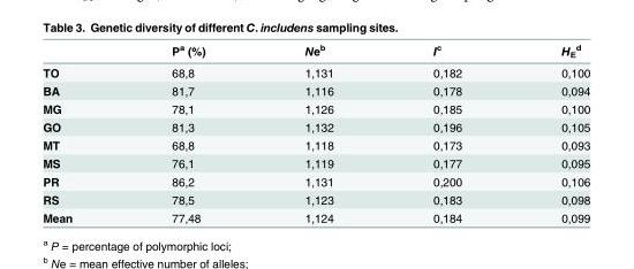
<table><thead><tr><td></td><td>P<sup>a</sup> (%)</td><td>Ne<sup>b</sup></td><td>I<sup>c</sup></td><td>H<sub>E</sub> <sup>d</sup></td></tr></thead><tbody><tr><td>TO</td><td>68,8</td><td>1,131</td><td>0,182</td><td>0,100</td></tr><tr><td>BA</td><td>81,7</td><td>1,116</td><td>0,178</td><td>0,094</td></tr><tr><td>MG</td><td>78,1</td><td>1,126</td><td>0,185</td><td>0,100</td></tr><tr><td>GO</td><td>81,3</td><td>1,132</td><td>0,196</td><td>0,105</td></tr><tr><td>MT</td><td>68,8</td><td>1,118</td><td>0,173</td><td>0,093</td></tr><tr><td>MS</td><td>76,1</td><td>1,119</td><td>0,177</td><td>0,095</td></tr><tr><td>PR</td><td>86,2</td><td>1,131</td><td>0,200</td><td>0,106</td></tr><tr><td>RS</td><td>78,5</td><td>1,123</td><td>0,183</td><td>0,098</td></tr><tr><td>Mean</td><td>77,48</td><td>1,124</td><td>0,184</td><td>0,099</td></tr></tbody></table>